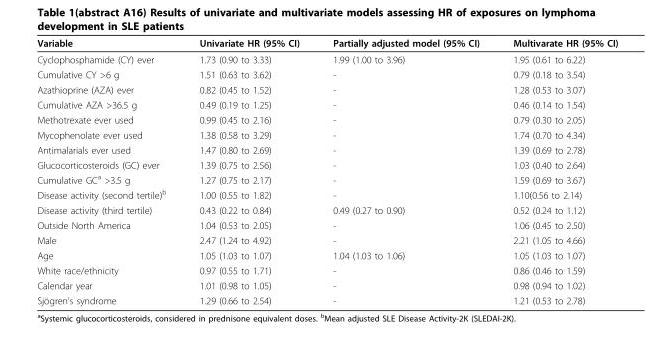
<table><thead><tr><td>Variable</td><td>Univariate HR (95% CI)</td><td>Partially adjusted model (95% CI)</td><td>Multivarate HR (95% CI)</td></tr></thead><tbody><tr><td>Cyclophosphamide (CY) ever</td><td>1.73 (0.90 to 3.33)</td><td>1.99 (1.00 to 3.96)</td><td>1.95 (0.61 to 6.22)</td></tr><tr><td>Cumulative CY &gt;6 g</td><td>1.51 (0.63 to 3.62)</td><td>-</td><td>0.79 (0.18 to 3.54)</td></tr><tr><td>Azathioprine (AZA) ever</td><td>0.82 (0.45 to 1.52)</td><td>-</td><td>1.28 (0.53 to 3.07)</td></tr><tr><td>Cumulative AZA &gt;36.5 g</td><td>0.49 (0.19 to 1.25)</td><td>-</td><td>0.46 (0.14 to 1.54)</td></tr><tr><td>Methotrexate ever used</td><td>0.99 (0.45 to 2.16)</td><td>-</td><td>0.79 (0.30 to 2.05)</td></tr><tr><td>Mycophenolate ever used</td><td>1.38 (0.58 to 3.29)</td><td>-</td><td>1.74 (0.70 to 4.34)</td></tr><tr><td>Antimalarials ever used</td><td>1.47 (0.80 to 2.69)</td><td>-</td><td>1.39 (0.69 to 2.78)</td></tr><tr><td>Glucocorticosteroids (GC) ever</td><td>1.39 (0.75 to 2.56)</td><td>-</td><td>1.03 (0.40 to 2.64)</td></tr><tr><td>Cumulative GC<sup>a</sup> &gt;3.5 g</td><td>1.27 (0.75 to 2.17)</td><td>-</td><td>1.59 (0.69 to 3.67)</td></tr><tr><td>Disease activity (second tertile)<sup>b</sup></td><td>1.00 (0.55 to 1.82)</td><td>-</td><td>1.10(0.56 to 2.14)</td></tr><tr><td>Disease activity (third tertile)</td><td>0.43 (0.22 to 0.84)</td><td>0.49 (0.27 to 0.90)</td><td>0.52 (0.24 to 1.12)</td></tr><tr><td>Outside North America</td><td>1.04 (0.53 to 2.05)</td><td>-</td><td>1.06 (0.45 to 2.50)</td></tr><tr><td>Male</td><td>2.47 (1.24 to 4.92)</td><td>-</td><td>2.21 (1.05 to 4.66)</td></tr><tr><td>Age</td><td>1.05 (1.03 to 1.07)</td><td>1.04 (1.03 to 1.06)</td><td>1.05 (1.03 to 1.07)</td></tr><tr><td>White race/ethnicity</td><td>0.97 (0.55 to 1.71)</td><td>-</td><td>0.86 (0.46 to 1.59)</td></tr><tr><td>Calendar year</td><td>1.01 (0.98 to 1.05)</td><td>-</td><td>0.98 (0.94 to 1.02)</td></tr><tr><td>Sjögren’s syndrome</td><td>1.29 (0.66 to 2.54)</td><td>-</td><td>1.21 (0.53 to 2.78)</td></tr></tbody></table>